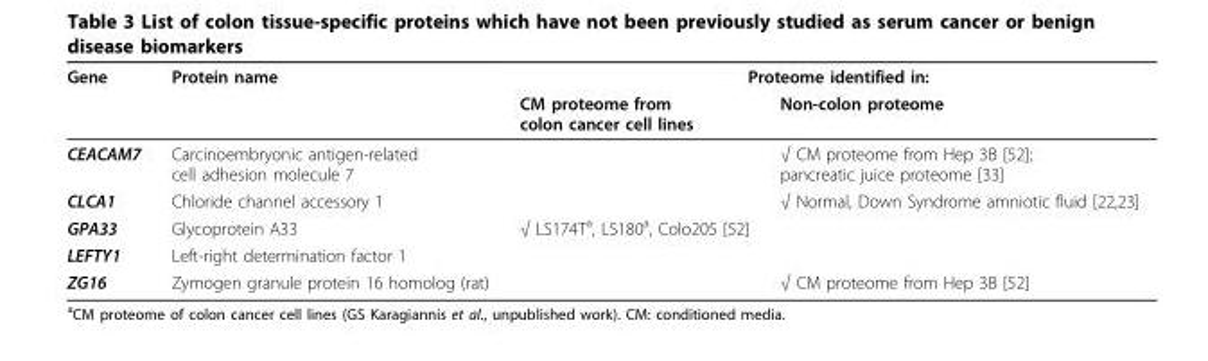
<table><thead><tr><td rowspan="2">Gene</td><td rowspan="2">Protein name</td><td colspan="2">Proteome identified in:</td></tr><tr><td>CM proteome from colon cancer cell lines</td><td>Non-colon proteome</td></tr></thead><tbody><tr><td>CEACAM7</td><td>Carcinoembryonic antigen-related cell adhesion molecule 7</td><td></td><td>√ CM proteome from Hep 3B [52]; pancreatic juice proteome [33]</td></tr><tr><td>CLCA1</td><td>Chloride channel accessory 1</td><td></td><td>√ Normal, Down Syndrome amniotic fluid [22,23]</td></tr><tr><td>GPA33</td><td>Glycoprotein A33</td><td>√ LS174T<sup>a</sup>, LS180<sup>a</sup>, Colo205 [52]</td><td></td></tr><tr><td>LEFTY1</td><td>Left-right determination factor 1</td><td></td><td></td></tr><tr><td>ZG16</td><td>Zymogen granule protein 16 homolog (rat)</td><td></td><td>√ CM proteome from Hep 3B [52]</td></tr></tbody></table>